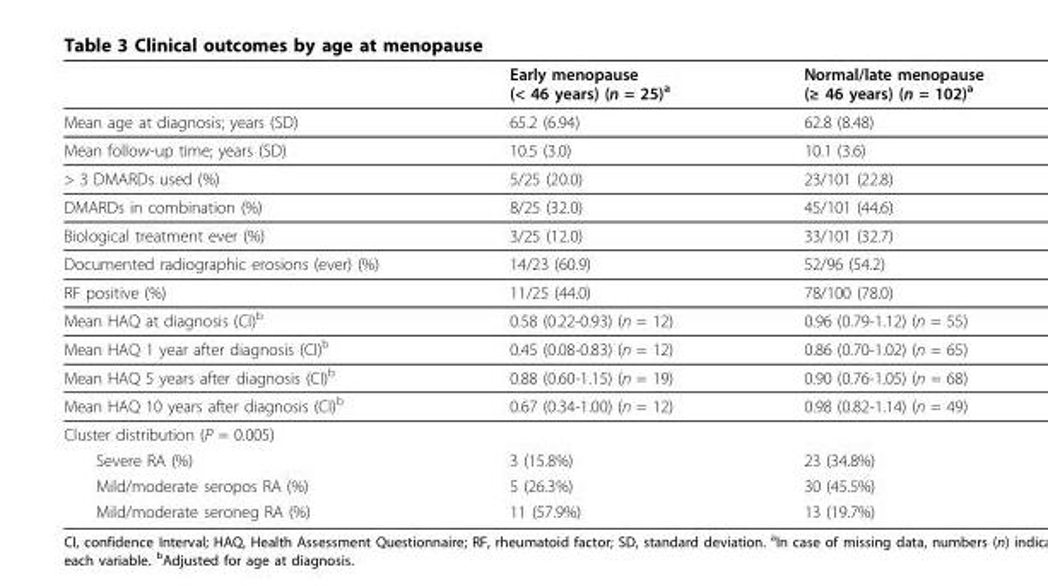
<table><thead><tr><td></td><td>Early menopause (&lt; 46 years) (n = 25)<sup>a</sup></td><td>Normal/late menopause (≥ 46 years) (n = 102)<sup>a</sup></td></tr></thead><tbody><tr><td>Mean age at diagnosis; years (SD)</td><td>65.2 (6.94)</td><td>62.8 (8.48)</td></tr><tr><td>Mean follow-up time; years (SD)</td><td>10.5 (3.0)</td><td>10.1 (3.6)</td></tr><tr><td>&gt; 3 DMARDs used (%)</td><td>5/25 (20.0)</td><td>23/101 (22.8)</td></tr><tr><td>DMARDs in combination (%)</td><td>8/25 (32.0)</td><td>45/101 (44.6)</td></tr><tr><td>Biological treatment ever (%)</td><td>3/25 (12.0)</td><td>33/101 (32.7)</td></tr><tr><td>Documented radiographic erosions (ever) (%)</td><td>14/23 (60.9)</td><td>52/96 (54.2)</td></tr><tr><td>RF positive (%)</td><td>11/25 (44.0)</td><td>78/100 (78.0)</td></tr><tr><td>Mean HAQ at diagnosis (CI)<sup>b</sup></td><td>0.58 (0.22-0.93) (n = 12)</td><td>0.96 (0.79-1.12) (n = 55)</td></tr><tr><td>Mean HAQ 1 year after diagnosis (CI)<sup>b</sup></td><td>0.45 (0.08-0.83) (n = 12)</td><td>0.86 (0.70-1.02) (n = 65)</td></tr><tr><td>Mean HAQ 5 years after diagnosis (CI)<sup>b</sup></td><td>0.88 (0.60-1.15) (n = 19)</td><td>0.90 (0.76-1.05) (n = 68)</td></tr><tr><td>Mean HAQ 10 years after diagnosis (CI)<sup>b</sup></td><td>0.67 (0.34-1.00) (n = 12)</td><td>0.98 (0.82-1.14) (n = 49)</td></tr><tr><td colspan="3">Cluster distribution (P = 0.005)</td></tr><tr><td>Severe RA (%)</td><td>3 (15.8%)</td><td>23 (34.8%)</td></tr><tr><td>Mild/moderate seropos RA (%)</td><td>5 (26.3%)</td><td>30 (45.5%)</td></tr><tr><td>Mild/moderate seroneg RA (%)</td><td>11 (57.9%)</td><td>13 (19.7%)</td></tr></tbody></table>